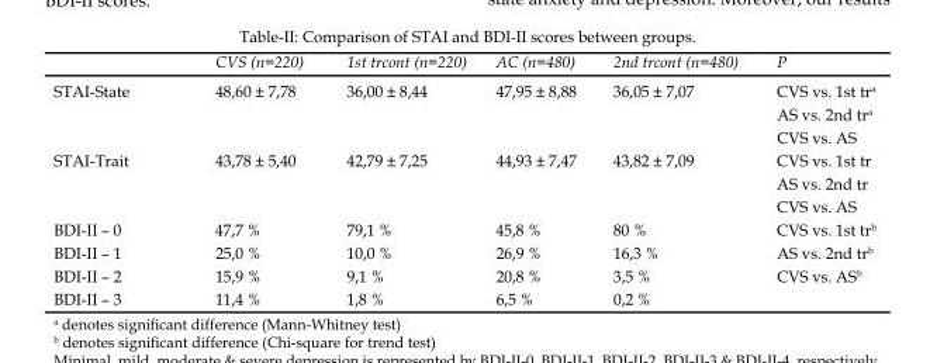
<table><thead><tr><td></td><td>CVS (n=220)</td><td>1st trcont (n=220)</td><td>AC (n=480)</td><td>2nd trcont (n=480)</td><td>P</td></tr></thead><tbody><tr><td rowspan="3">STAI-State</td><td rowspan="3">48,60 ± 7,78</td><td rowspan="3">36,00 ± 8,44</td><td rowspan="3">47,95 ± 8,88</td><td rowspan="3">36,05 ± 7,07</td><td>CVS vs. 1st tr<sup>a</sup></td></tr><tr><td>AS vs. 2nd tr<sup>a</sup></td></tr><tr><td>CVS vs. AS</td></tr><tr><td rowspan="3">STAI-Trait</td><td rowspan="3">43,78 ± 5,40</td><td rowspan="3">42,79 ± 7,25</td><td rowspan="3">44,93 ± 7,47</td><td rowspan="3">43,82 ± 7,09</td><td>CVS vs. 1st tr</td></tr><tr><td>AS vs. 2nd tr</td></tr><tr><td>CVS vs. AS</td></tr><tr><td>BDI-II – 0</td><td>47,7 %</td><td>79,1 %</td><td>45,8 %</td><td>80 %</td><td>CVS vs. 1st tr<sup>b</sup></td></tr><tr><td>BDI-II – 1</td><td>25,0 %</td><td>10,0 %</td><td>26,9 %</td><td>16,3 %</td><td>AS vs. 2nd tr<sup>b</sup></td></tr><tr><td>BDI-II – 2</td><td>15,9 %</td><td>9,1 %</td><td>20,8 %</td><td>3,5 %</td><td>CVS vs. AS<sup>b</sup></td></tr><tr><td>BDI-II – 3</td><td>11,4 %</td><td>1,8 %</td><td>6,5 %</td><td>0,2 %</td><td></td></tr></tbody></table>